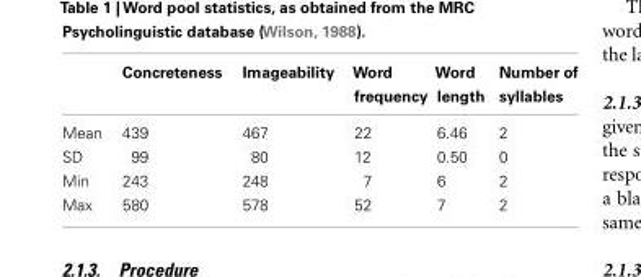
<table><thead><tr><td></td><td>Concreteness</td><td>Imageability</td><td>Word frequency</td><td>Word length</td><td>Number of syllables</td></tr></thead><tbody><tr><td>Mean</td><td>439</td><td>467</td><td>22</td><td>6.46</td><td>2</td></tr><tr><td>SD</td><td>99</td><td>80</td><td>12</td><td>0.50</td><td>0</td></tr><tr><td>Min</td><td>243</td><td>248</td><td>7</td><td>6</td><td>2</td></tr><tr><td>Max</td><td>580</td><td>578</td><td>52</td><td>7</td><td>2</td></tr></tbody></table>